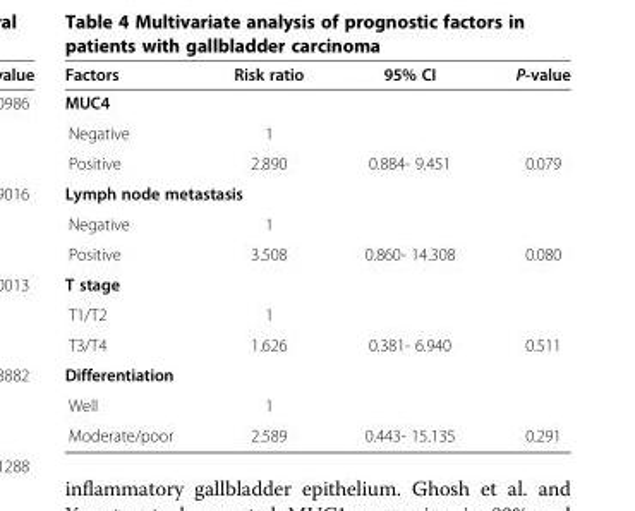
<table><thead><tr><td>Factors</td><td>Risk ratio</td><td>95% CI</td><td>P-value</td></tr></thead><tbody><tr><td colspan="4">MUC4</td></tr><tr><td>Negative</td><td>1</td><td></td><td></td></tr><tr><td>Positive</td><td>2.890</td><td>0.884- 9.451</td><td>0.079</td></tr><tr><td colspan="4">Lymph node metastasis</td></tr><tr><td>Negative</td><td>1</td><td></td><td></td></tr><tr><td>Positive</td><td>3.508</td><td>0.860- 14.308</td><td>0.080</td></tr><tr><td colspan="4">T stage</td></tr><tr><td>T1/T2</td><td>1</td><td></td><td></td></tr><tr><td>T3/T4</td><td>1.626</td><td>0.381- 6.940</td><td>0.511</td></tr><tr><td colspan="4">Differentiation</td></tr><tr><td>Well</td><td>1</td><td></td><td></td></tr><tr><td>Moderate/poor</td><td>2.589</td><td>0.443- 15.135</td><td>0.291</td></tr></tbody></table>